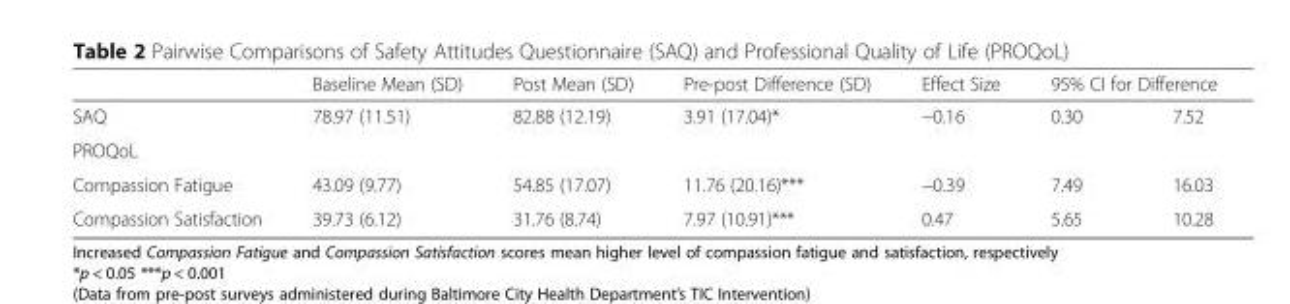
<table><thead><tr><td rowspan="2">SAQ</td><td rowspan="2">Baseline Mean (SD) 78.97 (11.51)</td><td rowspan="2">Post Mean (SD) 82.88 (12.19)</td><td rowspan="2">Pre-post Difference (SD) 3.91 (17.04)*</td><td rowspan="2">Effect Size −0.16</td><td colspan="2">95% CI for Difference</td></tr><tr><td>0.30</td><td>7.52</td></tr></thead><tbody><tr><td colspan="7">PROQoL</td></tr><tr><td>Compassion Fatigue</td><td>43.09 (9.77)</td><td>54.85 (17.07)</td><td>11.76 (20.16)***</td><td>−0.39</td><td>7.49</td><td>16.03</td></tr><tr><td>Compassion Satisfaction</td><td>39.73 (6.12)</td><td>31.76 (8.74)</td><td>7.97 (10.91)***</td><td>0.47</td><td>5.65</td><td>10.28</td></tr></tbody></table>